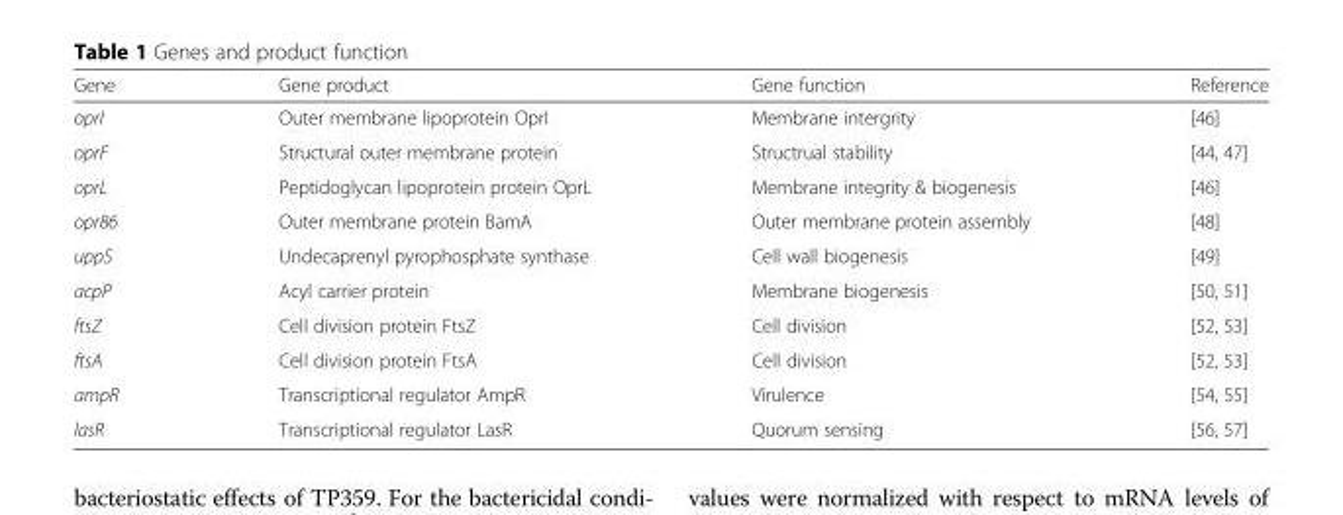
<table><thead><tr><td>Gene</td><td>Gene product</td><td>Gene function</td><td>Reference</td></tr></thead><tbody><tr><td>oprI</td><td>Outer membrane lipoprotein OprI</td><td>Membrane intergrity</td><td>[46]</td></tr><tr><td>oprF</td><td>Structural outer membrane protein</td><td>Structrual stability</td><td>[44, 47]</td></tr><tr><td>oprL</td><td>Peptidoglycan lipoprotein protein OprL</td><td>Membrane integrity &amp; biogenesis</td><td>[46]</td></tr><tr><td>opr86</td><td>Outer membrane protein BamA</td><td>Outer membrane protein assembly</td><td>[48]</td></tr><tr><td>uppS</td><td>Undecaprenyl pyrophosphate synthase</td><td>Cell wall biogenesis</td><td>[49]</td></tr><tr><td>acpP</td><td>Acyl carrier protein</td><td>Membrane biogenesis</td><td>[50, 51]</td></tr><tr><td>ftsZ</td><td>Cell division protein FtsZ</td><td>Cell division</td><td>[52, 53]</td></tr><tr><td>ftsA</td><td>Cell division protein FtsA</td><td>Cell division</td><td>[52, 53]</td></tr><tr><td>ampR</td><td>Transcriptional regulator AmpR</td><td>Virulence</td><td>[54, 55]</td></tr><tr><td>lasR</td><td>Transcriptional regulator LasR</td><td>Quorum sensing</td><td>[56, 57]</td></tr></tbody></table>